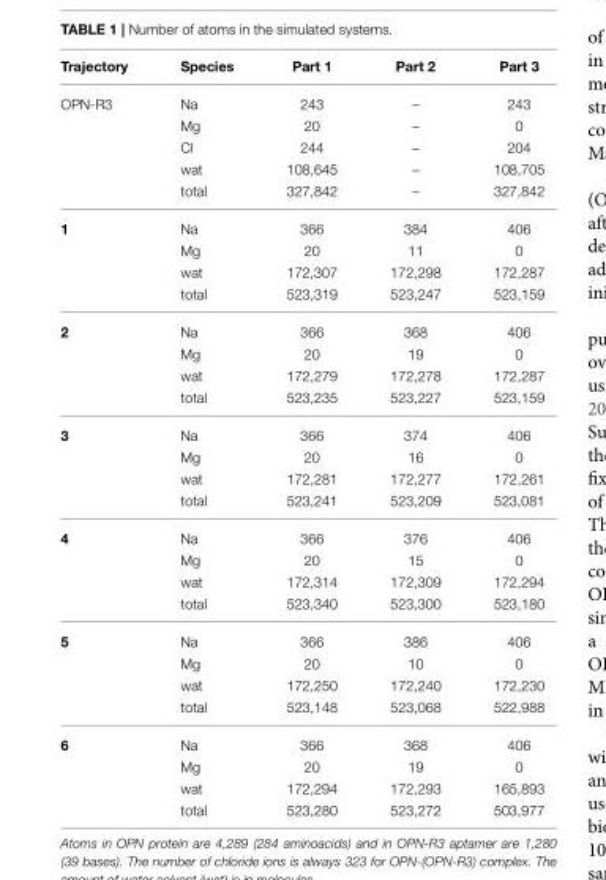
<table><thead><tr><td>Trajectory</td><td>Species</td><td>Part 1</td><td>Part 2</td><td>Part 3</td></tr></thead><tbody><tr><td rowspan="5">OPN-R3</td><td>Na</td><td>243</td><td>–</td><td>243</td></tr><tr><td>Mg</td><td>20</td><td>–</td><td>0</td></tr><tr><td>Cl</td><td>244</td><td>–</td><td>204</td></tr><tr><td>wat</td><td>108,645</td><td>–</td><td>108,705</td></tr><tr><td>total</td><td>327,842</td><td>–</td><td>327,842</td></tr><tr><td rowspan="4">1</td><td>Na</td><td>366</td><td>384</td><td>406</td></tr><tr><td>Mg</td><td>20</td><td>11</td><td>0</td></tr><tr><td>wat</td><td>172,307</td><td>172,298</td><td>172,287</td></tr><tr><td>total</td><td>523,319</td><td>523,247</td><td>523,159</td></tr><tr><td rowspan="4">2</td><td>Na</td><td>366</td><td>368</td><td>406</td></tr><tr><td>Mg</td><td>20</td><td>19</td><td>0</td></tr><tr><td>wat</td><td>172,279</td><td>172,278</td><td>172,287</td></tr><tr><td>total</td><td>523,235</td><td>523,227</td><td>523,159</td></tr><tr><td rowspan="4">3</td><td>Na</td><td>366</td><td>374</td><td>406</td></tr><tr><td>Mg</td><td>20</td><td>16</td><td>0</td></tr><tr><td>wat</td><td>172,281</td><td>172,277</td><td>172,261</td></tr><tr><td>total</td><td>523,241</td><td>523,209</td><td>523,081</td></tr><tr><td rowspan="4">4</td><td>Na</td><td>366</td><td>376</td><td>406</td></tr><tr><td>Mg</td><td>20</td><td>15</td><td>0</td></tr><tr><td>wat</td><td>172,314</td><td>172,309</td><td>172,294</td></tr><tr><td>total</td><td>523,340</td><td>523,300</td><td>523,180</td></tr><tr><td rowspan="4">5</td><td>Na</td><td>366</td><td>386</td><td>406</td></tr><tr><td>Mg</td><td>20</td><td>10</td><td>0</td></tr><tr><td>wat</td><td>172,250</td><td>172,240</td><td>172,230</td></tr><tr><td>total</td><td>523,148</td><td>523,068</td><td>522,988</td></tr><tr><td rowspan="4">6</td><td>Na</td><td>366</td><td>368</td><td>406</td></tr><tr><td>Mg</td><td>20</td><td>19</td><td>0</td></tr><tr><td>wat</td><td>172,294</td><td>172,293</td><td>165,893</td></tr><tr><td>total</td><td>523,280</td><td>523,272</td><td>503,977</td></tr></tbody></table>